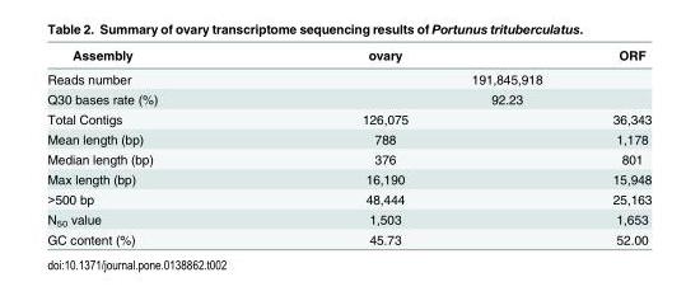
<table><thead><tr><td>Assembly</td><td>ovary</td><td>ORF</td></tr></thead><tbody><tr><td>Reads number</td><td colspan="2">191,845,918</td></tr><tr><td>Q30 bases rate (%)</td><td colspan="2">92.23</td></tr><tr><td>Total Contigs</td><td>126,075</td><td>36,343</td></tr><tr><td>Mean length (bp)</td><td>788</td><td>1,178</td></tr><tr><td>Median length (bp)</td><td>376</td><td>801</td></tr><tr><td>Max length (bp)</td><td>16,190</td><td>15,948</td></tr><tr><td>&gt;500 bp</td><td>48,444</td><td>25,163</td></tr><tr><td>N<sub>50</sub> value</td><td>1,503</td><td>1,653</td></tr><tr><td>GC content (%)</td><td>45.73</td><td>52.00</td></tr></tbody></table>